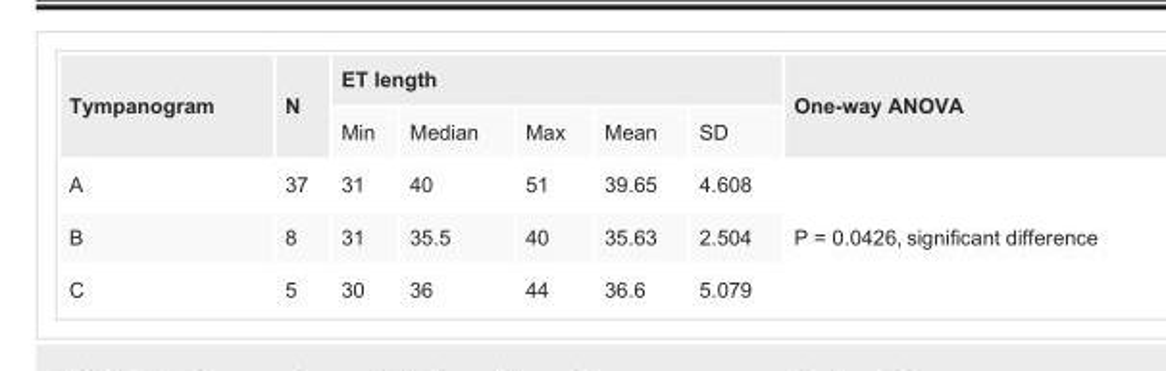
<table><tbody><tr><td rowspan="2">Tympanogram</td><td rowspan="2">N</td><td colspan="5">ET length</td><td rowspan="2">One-way ANOVA</td></tr><tr><td>Min</td><td>Median</td><td>Max</td><td>Mean</td><td>SD</td></tr><tr><td>A</td><td>37</td><td>31</td><td>40</td><td>51</td><td>39.65</td><td>4.608</td><td rowspan="3">P = 0.0426, significant difference</td></tr><tr><td>B</td><td>8</td><td>31</td><td>35.5</td><td>40</td><td>35.63</td><td>2.504</td></tr><tr><td>C</td><td>5</td><td>30</td><td>36</td><td>44</td><td>36.6</td><td>5.079</td></tr></tbody></table>